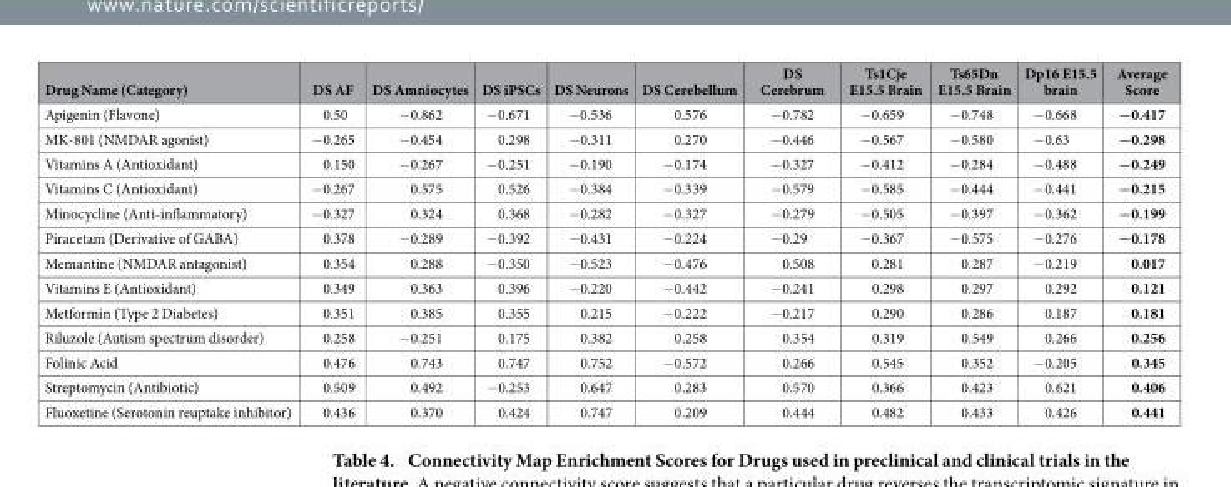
<table><thead><tr><td>Drug Name (Category)</td><td>DS AF</td><td>DS Amniocytes</td><td>DS iPSCs</td><td>DS Neurons</td><td>DS Cerebellum</td><td>DS Cerebrum</td><td>Ts1Cje E15.5 Brain</td><td>Ts65Dn E15.5 Brain</td><td>Dp16 E15.5 brain</td><td>Average Score</td></tr></thead><tbody><tr><td>Apigenin (Flavone)</td><td>0.50</td><td>− 0.862</td><td>− 0.671</td><td>− 0.536</td><td>0.576</td><td>− 0.782</td><td>− 0.659</td><td>− 0.748</td><td>− 0.668</td><td>− 0.417</td></tr><tr><td>MK-801 (NMDAR agonist)</td><td>− 0.265</td><td>− 0.454</td><td>0.298</td><td>− 0.311</td><td>0.270</td><td>− 0.446</td><td>− 0.567</td><td>− 0.580</td><td>− 0.63</td><td>− 0.298</td></tr><tr><td>Vitamins A (Antioxidant)</td><td>0.150</td><td>− 0.267</td><td>− 0.251</td><td>− 0.190</td><td>− 0.174</td><td>− 0.327</td><td>− 0.412</td><td>− 0.284</td><td>− 0.488</td><td>− 0.249</td></tr><tr><td>Vitamins C (Antioxidant)</td><td>− 0.267</td><td>0.575</td><td>0.526</td><td>− 0.384</td><td>− 0.339</td><td>− 0.579</td><td>− 0.585</td><td>− 0.444</td><td>− 0.441</td><td>− 0.215</td></tr><tr><td>Minocycline (Anti-inflammatory)</td><td>− 0.327</td><td>0.324</td><td>0.368</td><td>− 0.282</td><td>− 0.327</td><td>− 0.279</td><td>− 0.505</td><td>− 0.397</td><td>− 0.362</td><td>− 0.199</td></tr><tr><td>Piracetam (Derivative of GABA)</td><td>0.378</td><td>− 0.289</td><td>− 0.392</td><td>− 0.431</td><td>− 0.224</td><td>− 0.29</td><td>− 0.367</td><td>− 0.575</td><td>− 0.276</td><td>− 0.178</td></tr><tr><td>Memantine (NMDAR antagonist)</td><td>0.354</td><td>0.288</td><td>− 0.350</td><td>− 0.523</td><td>− 0.476</td><td>0.508</td><td>0.281</td><td>0.287</td><td>− 0.219</td><td>0.017</td></tr><tr><td>Vitamins E (Antioxidant)</td><td>0.349</td><td>0.363</td><td>0.396</td><td>− 0.220</td><td>− 0.442</td><td>− 0.241</td><td>0.298</td><td>0.297</td><td>0.292</td><td>0.121</td></tr><tr><td>Metformin (Type 2 Diabetes)</td><td>0.351</td><td>0.385</td><td>0.355</td><td>0.215</td><td>− 0.222</td><td>− 0.217</td><td>0.290</td><td>0.286</td><td>0.187</td><td>0.181</td></tr><tr><td>Riluzole (Autism spectrum disorder)</td><td>0.258</td><td>− 0.251</td><td>0.175</td><td>0.382</td><td>0.258</td><td>0.354</td><td>0.319</td><td>0.549</td><td>0.266</td><td>0.256</td></tr><tr><td>Folinic Acid</td><td>0.476</td><td>0.743</td><td>0.747</td><td>0.752</td><td>− 0.572</td><td>0.266</td><td>0.545</td><td>0.352</td><td>− 0.205</td><td>0.345</td></tr><tr><td>Streptomycin (Antibiotic)</td><td>0.509</td><td>0.492</td><td>− 0.253</td><td>0.647</td><td>0.283</td><td>0.570</td><td>0.366</td><td>0.423</td><td>0.621</td><td>0.406</td></tr><tr><td>Fluoxetine (Serotonin reuptake inhibitor)</td><td>0.436</td><td>0.370</td><td>0.424</td><td>0.747</td><td>0.209</td><td>0.444</td><td>0.482</td><td>0.433</td><td>0.426</td><td>0.441</td></tr></tbody></table>